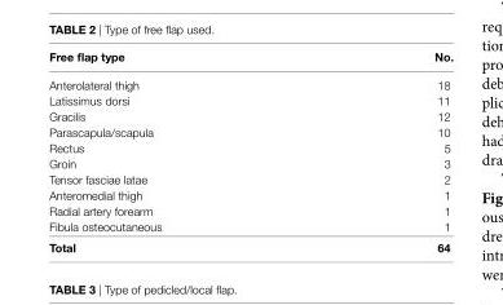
<table><thead><tr><td>Free flap type</td><td>no.</td></tr></thead><tbody><tr><td>Anterolateral thigh</td><td>18</td></tr><tr><td>Latissimus dorsi</td><td>11</td></tr><tr><td>Gracilis</td><td>12</td></tr><tr><td>Parascapula/scapula</td><td>10</td></tr><tr><td>Rectus</td><td>5</td></tr><tr><td>Groin</td><td>3</td></tr><tr><td>Tensor fasciae latae</td><td>2</td></tr><tr><td>Anteromedial thigh</td><td>1</td></tr><tr><td>Radial artery forearm</td><td>1</td></tr><tr><td>Fibula osteocutaneous</td><td>1</td></tr><tr><td>Total</td><td>64</td></tr></tbody></table>